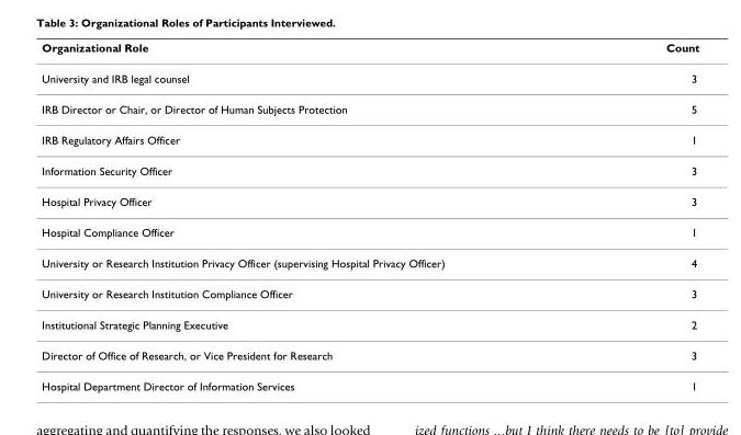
<table><thead><tr><td>Organizational Role</td><td>Count</td></tr></thead><tbody><tr><td>University and IRB legal counsel</td><td>3</td></tr><tr><td>IRB Director or Chair, or Director of Human Subjects Protection</td><td>5</td></tr><tr><td>IRB Regulatory Affairs Officer</td><td>1</td></tr><tr><td>Information Security Officer</td><td>3</td></tr><tr><td>Hospital Privacy Officer</td><td>3</td></tr><tr><td>Hospital Compliance Officer</td><td>1</td></tr><tr><td>University or Research Institution Privacy Officer (supervising Hospital Privacy Officer)</td><td>4</td></tr><tr><td>University or Research Institution Compliance Officer</td><td>3</td></tr><tr><td>Institutional Strategic Planning Executive</td><td>2</td></tr><tr><td>Director of Office of Research, or Vice President for Research</td><td>3</td></tr><tr><td>Hospital Department Director of Information Services</td><td>1</td></tr></tbody></table>